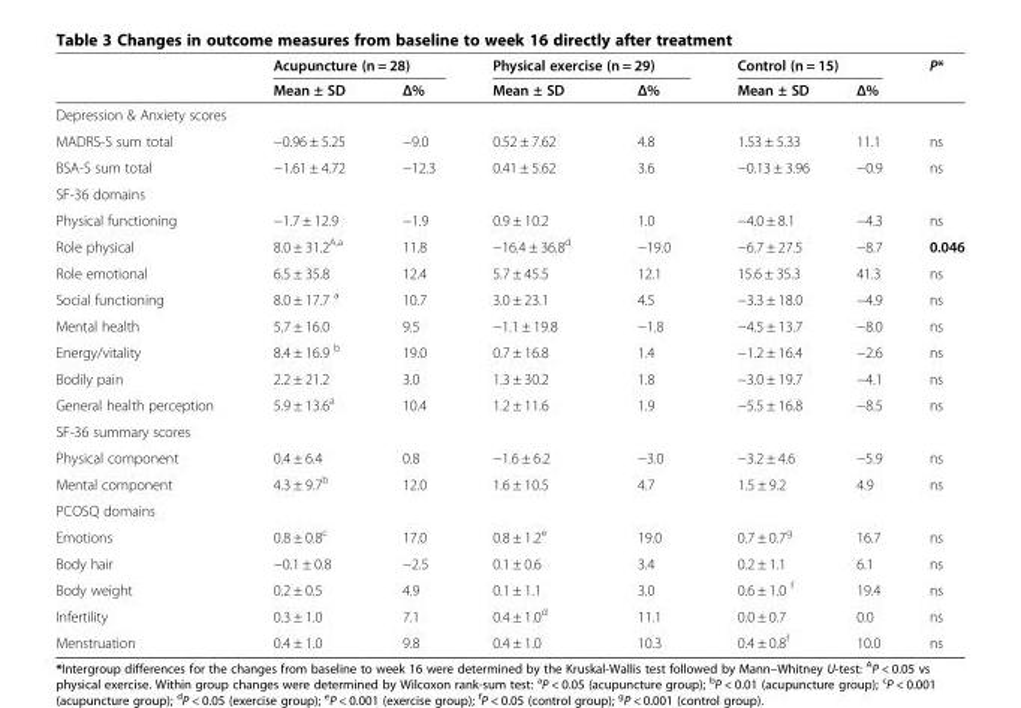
<table><thead><tr><td rowspan="2"></td><td colspan="2">Acupuncture (n = 28)</td><td colspan="2">Physical exercise (n = 29)</td><td colspan="2">Control (n = 15)</td><td rowspan="2">P*</td></tr><tr><td>Mean ± SD</td><td>Δ%</td><td>Mean ± SD</td><td>Δ%</td><td>Mean ± SD</td><td>Δ%</td></tr></thead><tbody><tr><td colspan="8">Depression &amp; Anxiety scores</td></tr><tr><td>MADRS-S sum total</td><td>−0.96 ± 5.25</td><td>−9.0</td><td>0.52 ± 7.62</td><td>4.8</td><td>1.53 ± 5.33</td><td>11.1</td><td>ns</td></tr><tr><td>BSA-S sum total</td><td>−1.61 ± 4.72</td><td>−12.3</td><td>0.41 ± 5.62</td><td>3.6</td><td>−0.13 ± 3.96</td><td>−0.9</td><td>ns</td></tr><tr><td colspan="8">SF-36 domains</td></tr><tr><td>Physical functioning</td><td>−1.7 ± 12.9</td><td>−1.9</td><td>0.9 ± 10.2</td><td>1.0</td><td>−4.0 ± 8.1</td><td>−4.3</td><td>ns</td></tr><tr><td>Role physical</td><td>8.0 ± 31.2<sup>A,a</sup></td><td>11.8</td><td>−16.4 ± 36.8<sup>d</sup></td><td>−19.0</td><td>−6.7 ± 27.5</td><td>−8.7</td><td>0.046</td></tr><tr><td>Role emotional</td><td>6.5 ± 35.8</td><td>12.4</td><td>5.7 ± 45.5</td><td>12.1</td><td>15.6 ± 35.3</td><td>41.3</td><td>ns</td></tr><tr><td>Social functioning</td><td>8.0 ± 17.7 <sup>a</sup></td><td>10.7</td><td>3.0 ± 23.1</td><td>4.5</td><td>−3.3 ± 18.0</td><td>−4.9</td><td>ns</td></tr><tr><td>Mental health</td><td>5.7 ± 16.0</td><td>9.5</td><td>−1.1 ± 19.8</td><td>−1.8</td><td>−4.5 ± 13.7</td><td>−8.0</td><td>ns</td></tr><tr><td>Energy/vitality</td><td>8.4 ± 16.9 <sup>b</sup></td><td>19.0</td><td>0.7 ± 16.8</td><td>1.4</td><td>−1.2 ± 16.4</td><td>−2.6</td><td>ns</td></tr><tr><td>Bodily pain</td><td>2.2 ± 21.2</td><td>3.0</td><td>1.3 ± 30.2</td><td>1.8</td><td>−3.0 ± 19.7</td><td>−4.1</td><td>ns</td></tr><tr><td>General health perception</td><td>5.9 ± 13.6<sup>a</sup></td><td>10.4</td><td>1.2 ± 11.6</td><td>1.9</td><td>−5.5 ± 16.8</td><td>−8.5</td><td>ns</td></tr><tr><td colspan="8">SF-36 summary scores</td></tr><tr><td>Physical component</td><td>0.4 ± 6.4</td><td>0.8</td><td>−1.6 ± 6.2</td><td>−3.0</td><td>−3.2 ± 4.6</td><td>−5.9</td><td>ns</td></tr><tr><td>Mental component</td><td>4.3 ± 9.7<sup>b</sup></td><td>12.0</td><td>1.6 ± 10.5</td><td>4.7</td><td>1.5 ± 9.2</td><td>4.9</td><td>ns</td></tr><tr><td colspan="8">PCOSQ domains</td></tr><tr><td>Emotions</td><td>0.8 ± 0.8<sup>c</sup></td><td>17.0</td><td>0.8 ± 1.2<sup>e</sup></td><td>19.0</td><td>0.7 ± 0.7<sup>g</sup></td><td>16.7</td><td>ns</td></tr><tr><td>Body hair</td><td>−0.1 ± 0.8</td><td>−2.5</td><td>0.1 ± 0.6</td><td>3.4</td><td>0.2 ± 1.1</td><td>6.1</td><td>ns</td></tr><tr><td>Body weight</td><td>0.2 ± 0.5</td><td>4.9</td><td>0.1 ± 1.1</td><td>3.0</td><td>0.6 ± 1.0 <sup>f</sup></td><td>19.4</td><td>ns</td></tr><tr><td>Infertility</td><td>0.3 ± 1.0</td><td>7.1</td><td>0.4 ± 1.0<sup>d</sup></td><td>11.1</td><td>0.0 ± 0.7</td><td>0.0</td><td>ns</td></tr><tr><td>Menstruation</td><td>0.4 ± 1.0</td><td>9.8</td><td>0.4 ± 1.0</td><td>10.3</td><td>0.4 ± 0.8<sup>f</sup></td><td>10.0</td><td>ns</td></tr></tbody></table>